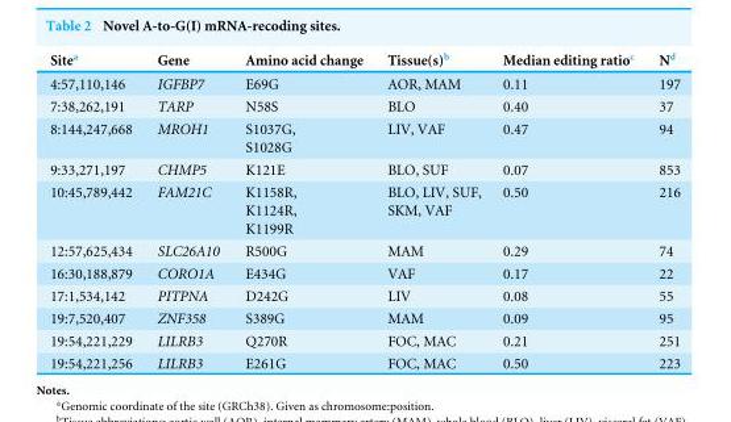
<table><thead><tr><td>Site<sup>a</sup></td><td>Gene</td><td>Amino acid change</td><td>Tissue(s)<sup>b</sup></td><td>Median editing ratio<sup>c</sup></td><td>N<sup>d</sup></td></tr></thead><tbody><tr><td>4:57,110,146</td><td>IGFBP7</td><td>E69G</td><td>AOR, MAM</td><td>0.11</td><td>197</td></tr><tr><td>7:38,262,191</td><td>TARP</td><td>N58S</td><td>BLO</td><td>0.40</td><td>37</td></tr><tr><td>8:144,247,668</td><td>MROH1</td><td>S1037G, S1028G</td><td>LIV, VAF</td><td>0.47</td><td>94</td></tr><tr><td>9:33,271,197</td><td>CHMP5</td><td>K121E</td><td>BLO, SUF</td><td>0.07</td><td>853</td></tr><tr><td>10:45,789,442</td><td>FAM21C</td><td>K1158R, K1124R, K1199R</td><td>BLO, LIV, SUF, SKM, VAF</td><td>0.50</td><td>216</td></tr><tr><td>12:57,625,434</td><td>SLC26A10</td><td>R500G</td><td>MAM</td><td>0.29</td><td>74</td></tr><tr><td>16:30,188,879</td><td>CORO1A</td><td>E434G</td><td>VAF</td><td>0.17</td><td>22</td></tr><tr><td>17:1,534,142</td><td>PITPNA</td><td>D242G</td><td>LIV</td><td>0.08</td><td>55</td></tr><tr><td>19:7,520,407</td><td>ZNF358</td><td>S389G</td><td>MAM</td><td>0.09</td><td>95</td></tr><tr><td>19:54,221,229</td><td>LILRB3</td><td>Q270R</td><td>FOC, MAC</td><td>0.21</td><td>251</td></tr><tr><td>19:54,221,256</td><td>LILRB3</td><td>E261G</td><td>FOC, MAC</td><td>0.50</td><td>223</td></tr></tbody></table>